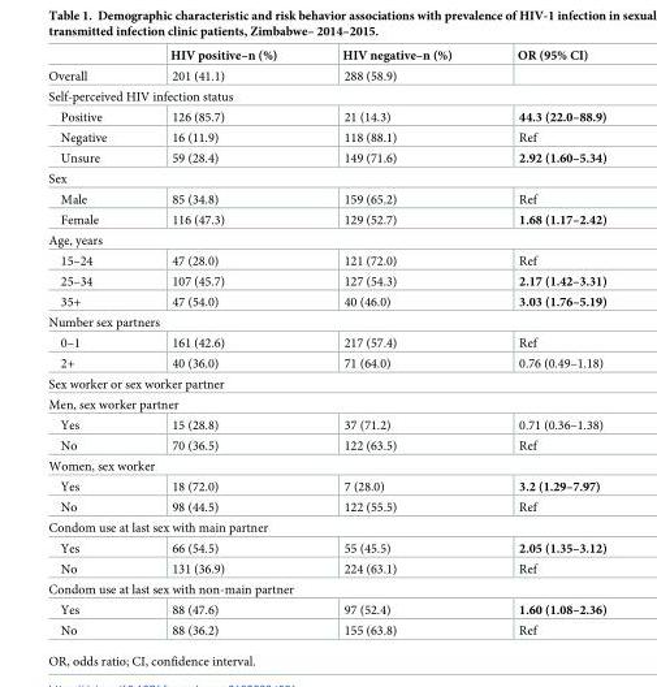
<table><thead><tr><td></td><td>HIV positive–n (%)</td><td>HIV negative–n (%)</td><td>OR (95% CI)</td></tr></thead><tbody><tr><td>Overall</td><td>201 (41.1)</td><td>288 (58.9)</td><td></td></tr><tr><td colspan="4">Self-perceived HIV infection status</td></tr><tr><td>Positive</td><td>126 (85.7)</td><td>21 (14.3)</td><td>44.3 (22.0–88.9)</td></tr><tr><td>Negative</td><td>16 (11.9)</td><td>118 (88.1)</td><td>Ref</td></tr><tr><td>Unsure</td><td>59 (28.4)</td><td>149 (71.6)</td><td>2.92 (1.60–5.34)</td></tr><tr><td colspan="4">Sex</td></tr><tr><td>Male</td><td>85 (34.8)</td><td>159 (65.2)</td><td>Ref</td></tr><tr><td>Female</td><td>116 (47.3)</td><td>129 (52.7)</td><td>1.68 (1.17–2.42)</td></tr><tr><td colspan="4">Age, years</td></tr><tr><td>15–24</td><td>47 (28.0)</td><td>121 (72.0)</td><td>Ref</td></tr><tr><td>25–34</td><td>107 (45.7)</td><td>127 (54.3)</td><td>2.17 (1.42–3.31)</td></tr><tr><td>35+</td><td>47 (54.0)</td><td>40 (46.0)</td><td>3.03 (1.76–5.19)</td></tr><tr><td colspan="4">Number sex partners</td></tr><tr><td>0–1</td><td>161 (42.6)</td><td>217 (57.4)</td><td>Ref</td></tr><tr><td>2+</td><td>40 (36.0)</td><td>71 (64.0)</td><td>0.76 (0.49–1.18)</td></tr><tr><td colspan="4">Sex worker or sex worker partner</td></tr><tr><td colspan="4">Men, sex worker partner</td></tr><tr><td>Yes</td><td>15 (28.8)</td><td>37 (71.2)</td><td>0.71 (0.36–1.38)</td></tr><tr><td>No</td><td>70 (36.5)</td><td>122 (63.5)</td><td>Ref</td></tr><tr><td colspan="4">Women, sex worker</td></tr><tr><td>Yes</td><td>18 (72.0)</td><td>7 (28.0)</td><td>3.2 (1.29–7.97)</td></tr><tr><td>No</td><td>98 (44.5)</td><td>122 (55.5)</td><td>Ref</td></tr><tr><td colspan="4">Condom use at last sex with main partner</td></tr><tr><td>Yes</td><td>66 (54.5)</td><td>55 (45.5)</td><td>2.05 (1.35–3.12)</td></tr><tr><td>No</td><td>131 (36.9)</td><td>224 (63.1)</td><td>Ref</td></tr><tr><td colspan="4">Condom use at last sex with non-main partner</td></tr><tr><td>Yes</td><td>88 (47.6)</td><td>97 (52.4)</td><td>1.60 (1.08–2.36)</td></tr><tr><td>No</td><td>88 (36.2)</td><td>155 (63.8)</td><td>Ref</td></tr></tbody></table>